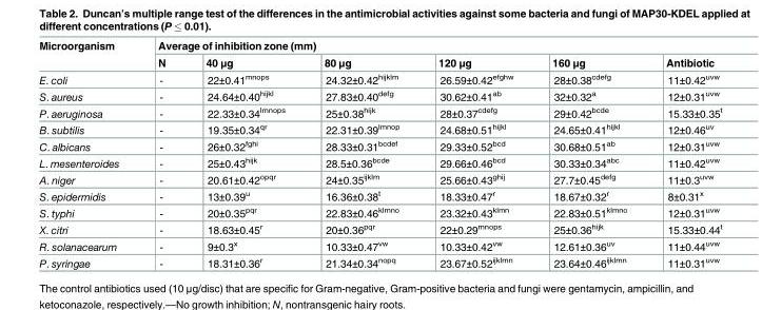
<table><thead><tr><td rowspan="2">Microorganism</td><td colspan="6">Average of inhibition zone (mm)</td></tr><tr><td>N</td><td>40 μg</td><td>80 μg</td><td>120 μg</td><td>160 μg</td><td>Antibiotic</td></tr></thead><tbody><tr><td>E. coli</td><td>-</td><td>22±0.41<sup>mnops</sup></td><td>24.32±0.42<sup>hijklm</sup></td><td>26.59±0.42<sup>efghw</sup></td><td>28±0.38<sup>cdefg</sup></td><td>11±0.42<sup>uvw</sup></td></tr><tr><td>S. aureus</td><td>-</td><td>24.64±0.40<sup>hijkl</sup></td><td>27.83±0.40<sup>defg</sup></td><td>30.62±0.41<sup>ab</sup></td><td>32±0.32<sup>a</sup></td><td>12±0.31<sup>uvw</sup></td></tr><tr><td>P. aeruginosa</td><td>-</td><td>22.33±0.34<sup>lmnops</sup></td><td>25±0.38<sup>hijk</sup></td><td>28±0.37<sup>cdefg</sup></td><td>29±0.42<sup>bcde</sup></td><td>15.33±0.35<sup>t</sup></td></tr><tr><td>B. subtilis</td><td>-</td><td>19.35±0.34<sup>qr</sup></td><td>22.31±0.39<sup>lmnop</sup></td><td>24.68±0.51<sup>hijkl</sup></td><td>24.65±0.41<sup>hijkl</sup></td><td>12±0.46<sup>uv</sup></td></tr><tr><td>C. albicans</td><td>-</td><td>26±0.32<sup>fghi</sup></td><td>28.33±0.31<sup>bcdef</sup></td><td>29.33±0.52<sup>bcd</sup></td><td>30.68±0.51<sup>ab</sup></td><td>12±0.31<sup>uvw</sup></td></tr><tr><td>L. mesenteroides</td><td>-</td><td>25±0.43<sup>hijk</sup></td><td>28.5±0.36<sup>bcde</sup></td><td>29.66±0.46<sup>bcd</sup></td><td>30.33±0.34<sup>abc</sup></td><td>11±0.42<sup>uvw</sup></td></tr><tr><td>A. niger</td><td>-</td><td>20.61±0.42<sup>opqr</sup></td><td>24±0.35<sup>ijklm</sup></td><td>25.66±0.43<sup>ghij</sup></td><td>27.7±0.45<sup>defg</sup></td><td>11±0.3<sup>uvw</sup></td></tr><tr><td>S. epidermidis</td><td>-</td><td>13±0.39<sup>u</sup></td><td>16.36±0.38<sup>t</sup></td><td>18.33±0.47<sup>r</sup></td><td>18.67±0.32<sup>r</sup></td><td>8±0.31<sup>x</sup></td></tr><tr><td>S. typhi</td><td>-</td><td>20±0.35<sup>pqr</sup></td><td>22.83±0.46<sup>klmno</sup></td><td>23.32±0.43<sup>klmn</sup></td><td>22.83±0.51<sup>klmno</sup></td><td>12±0.31<sup>uvw</sup></td></tr><tr><td>X. citri</td><td>-</td><td>18.63±0.45<sup>r</sup></td><td>20±0.36<sup>pqr</sup></td><td>22±0.29<sup>mnops</sup></td><td>25±0.36<sup>hijk</sup></td><td>15.33±0.44<sup>t</sup></td></tr><tr><td>R. solanacearum</td><td>-</td><td>9±0.3<sup>x</sup></td><td>10.33±0.47<sup>vw</sup></td><td>10.33±0.42<sup>vw</sup></td><td>12.61±0.36<sup>uv</sup></td><td>11±0.44<sup>uvw</sup></td></tr><tr><td>P. syringae</td><td>-</td><td>18.31±0.36<sup>r</sup></td><td>21.34±0.34<sup>nopq</sup></td><td>23.67±0.52<sup>ijklmn</sup></td><td>23.64±0.46<sup>ijklmn</sup></td><td>11±0.31<sup>uvw</sup></td></tr></tbody></table>